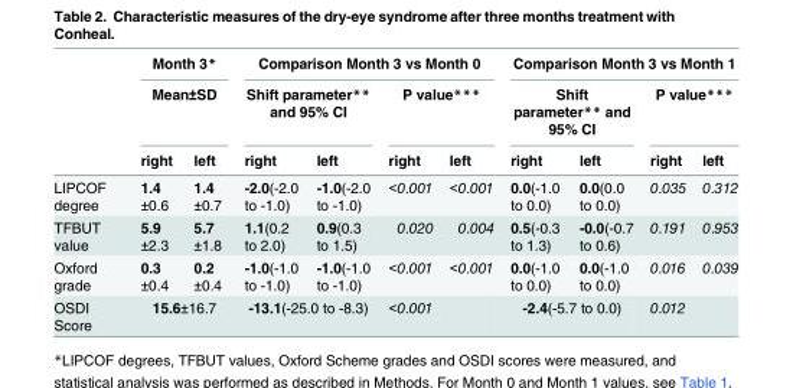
<table><thead><tr><td rowspan="3"></td><td rowspan="2" colspan="2">Month 3* Mean±SD</td><td colspan="4">Comparison Month 3 vs Month 0</td><td colspan="4">Comparison Month 3 vs Month 1</td></tr><tr><td colspan="2">Shift parameter** and 95% CI</td><td colspan="2">P value***</td><td colspan="2">Shift parameter** and 95% CI</td><td colspan="2">P value***</td></tr><tr><td>right</td><td>left</td><td>right</td><td>left</td><td>right</td><td>left</td><td>right</td><td>left</td><td>right</td><td>left</td></tr></thead><tbody><tr><td>LIPCOF degree</td><td>1.4 ±0.6</td><td>1.4 ±0.7</td><td>-2.0(-2.0 to -1.0)</td><td>-1.0(-2.0 to -1.0)</td><td>&lt;0.001</td><td>&lt;0.001</td><td>0.0(-1.0 to 0.0)</td><td>0.0(0.0 to 0.0)</td><td>0.035</td><td>0.312</td></tr><tr><td>TFBUT value</td><td>5.9 ±2.3</td><td>5.7 ±1.8</td><td>1.1(0.2 to 2.0)</td><td>0.9(0.3 to 1.5)</td><td>0.020</td><td>0.004</td><td>0.5(-0.3 to 1.3)</td><td>-0.0(-0.7 to 0.6)</td><td>0.191</td><td>0.953</td></tr><tr><td>Oxford grade</td><td>0.3 ±0.4</td><td>0.2 ±0.4</td><td>-1.0(-1.0 to -1.0)</td><td>-1.0(-1.0 to -1.0)</td><td>&lt;0.001</td><td>&lt;0.001</td><td>0.0(-1.0 to 0.0)</td><td>0.0(-1.0 to 0.0)</td><td>0.016</td><td>0.039</td></tr><tr><td>OSDI Score</td><td colspan="2">15.6±16.7</td><td colspan="2">-13.1(-25.0 to -8.3)</td><td colspan="2">&lt;0.001</td><td colspan="2">-2.4(-5.7 to 0.0)</td><td colspan="2">0.012</td></tr></tbody></table>